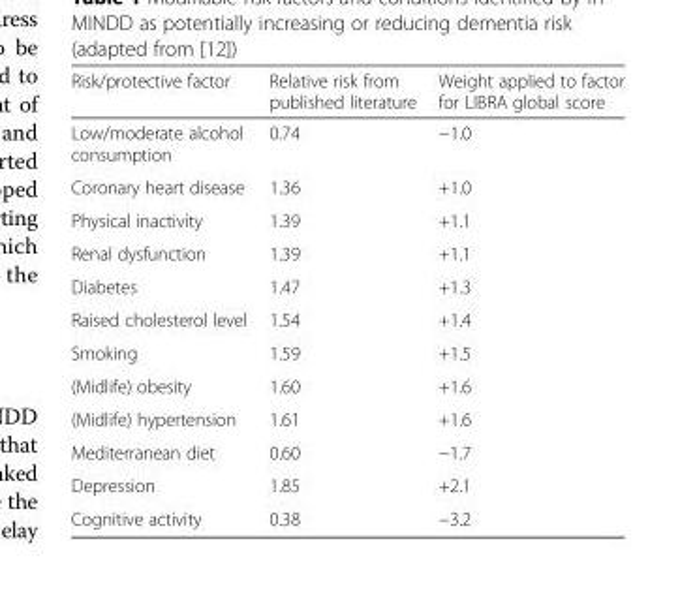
<table><thead><tr><td>Risk/protective factor</td><td>Relative risk from published literature</td><td>Weight applied to factor for LIBRA global score</td></tr></thead><tbody><tr><td>Low/moderate alcohol consumption</td><td>0.74</td><td>−1.0</td></tr><tr><td>Coronary heart disease</td><td>1.36</td><td>+1.0</td></tr><tr><td>Physical inactivity</td><td>1.39</td><td>+1.1</td></tr><tr><td>Renal dysfunction</td><td>1.39</td><td>+1.1</td></tr><tr><td>Diabetes</td><td>1.47</td><td>+1.3</td></tr><tr><td>Raised cholesterol level</td><td>1.54</td><td>+1.4</td></tr><tr><td>Smoking</td><td>1.59</td><td>+1.5</td></tr><tr><td>(Midlife) obesity</td><td>1.60</td><td>+1.6</td></tr><tr><td>(Midlife) hypertension</td><td>1.61</td><td>+1.6</td></tr><tr><td>Mediterranean diet</td><td>0.60</td><td>−1.7</td></tr><tr><td>Depression</td><td>1.85</td><td>+2.1</td></tr><tr><td>Cognitive activity</td><td>0.38</td><td>−3.2</td></tr></tbody></table>